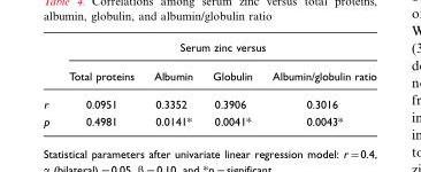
<table><thead><tr><td rowspan="2"></td><td colspan="4">Serum zinc versus</td></tr><tr><td>Total proteins</td><td>Albumin</td><td>Globulin</td><td>Albumin/globulin ratio</td></tr></thead><tbody><tr><td>r</td><td>0.0951</td><td>0.3352</td><td>0.3906</td><td>0.3016</td></tr><tr><td>p</td><td>0.4981</td><td>0.0141*</td><td>0.0041*</td><td>0.0043*</td></tr></tbody></table>